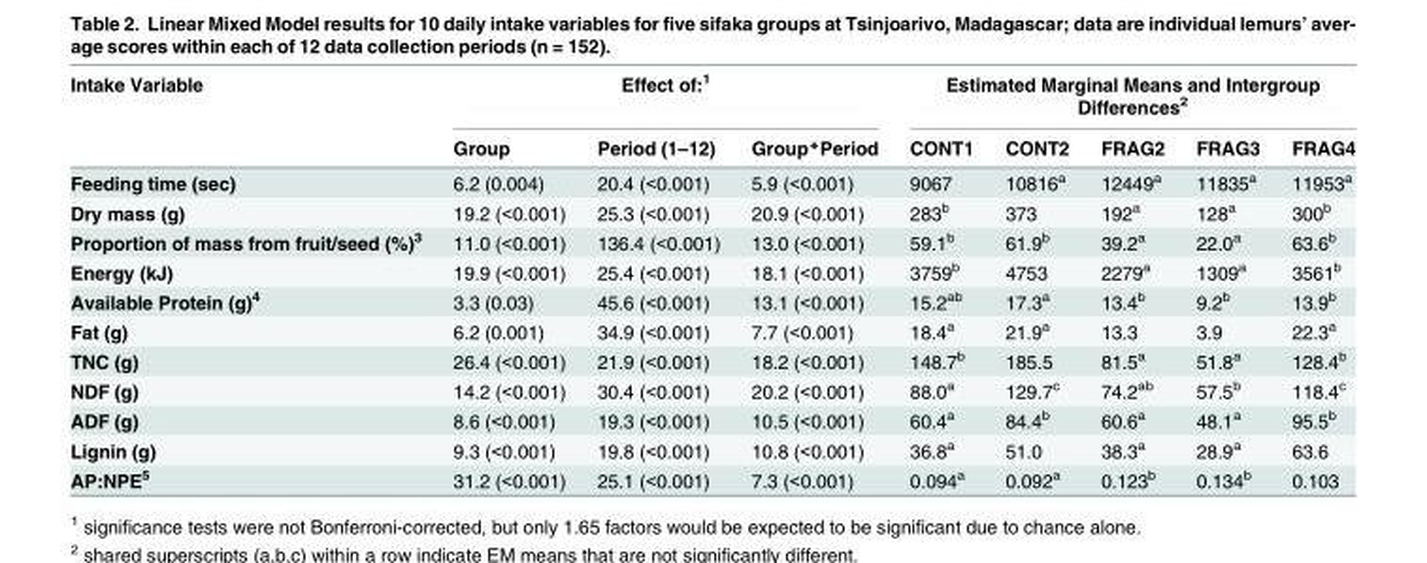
<table><thead><tr><td rowspan="2">Intake Variable</td><td colspan="3">Effect of:<sup>1</sup></td><td colspan="5">Estimated Marginal Means and Intergroup Differences<sup>2</sup></td></tr><tr><td>Group</td><td>Period (1–12)</td><td>Group*Period</td><td>CONT1</td><td>CONT2</td><td>FRAG2</td><td>FRAG3</td><td>FRAG4</td></tr></thead><tbody><tr><td>Feeding time (sec)</td><td>6.2 (0.004)</td><td>20.4 (&lt;0.001)</td><td>5.9 (&lt;0.001)</td><td>9067</td><td>10816<sup>a</sup></td><td>12449<sup>a</sup></td><td>11835<sup>a</sup></td><td>11953<sup>a</sup></td></tr><tr><td>Dry mass (g)</td><td>19.2 (&lt;0.001)</td><td>25.3 (&lt;0.001)</td><td>20.9 (&lt;0.001)</td><td>283<sup>b</sup></td><td>373</td><td>192<sup>a</sup></td><td>128<sup>a</sup></td><td>300<sup>b</sup></td></tr><tr><td>Proportion of mass from fruit/seed (%)<sup>3</sup></td><td>11.0 (&lt;0.001)</td><td>136.4 (&lt;0.001)</td><td>13.0 (&lt;0.001)</td><td>59.1<sup>b</sup></td><td>61.9<sup>b</sup></td><td>39.2<sup>a</sup></td><td>22.0<sup>a</sup></td><td>63.6<sup>b</sup></td></tr><tr><td>Energy (kJ)</td><td>19.9 (&lt;0.001)</td><td>25.4 (&lt;0.001)</td><td>18.1 (&lt;0.001)</td><td>3759<sup>b</sup></td><td>4753</td><td>2279<sup>a</sup></td><td>1309<sup>a</sup></td><td>3561<sup>b</sup></td></tr><tr><td>Available Protein (g)<sup>4</sup></td><td>3.3 (0.03)</td><td>45.6 (&lt;0.001)</td><td>13.1 (&lt;0.001)</td><td>15.2<sup>ab</sup></td><td>17.3<sup>a</sup></td><td>13.4<sup>b</sup></td><td>9.2<sup>b</sup></td><td>13.9<sup>b</sup></td></tr><tr><td>Fat (g)</td><td>6.2 (0.001)</td><td>34.9 (&lt;0.001)</td><td>7.7 (&lt;0.001)</td><td>18.4<sup>a</sup></td><td>21.9<sup>a</sup></td><td>13.3</td><td>3.9</td><td>22.3<sup>a</sup></td></tr><tr><td>TNC (g)</td><td>26.4 (&lt;0.001)</td><td>21.9 (&lt;0.001)</td><td>18.2 (&lt;0.001)</td><td>148.7<sup>b</sup></td><td>185.5</td><td>81.5<sup>a</sup></td><td>51.8<sup>a</sup></td><td>128.4<sup>b</sup></td></tr><tr><td>NDF (g)</td><td>14.2 (&lt;0.001)</td><td>30.4 (&lt;0.001)</td><td>20.2 (&lt;0.001)</td><td>88.0<sup>a</sup></td><td>129.7<sup>c</sup></td><td>74.2<sup>ab</sup></td><td>57.5<sup>b</sup></td><td>118.4<sup>c</sup></td></tr><tr><td>ADF (g)</td><td>8.6 (&lt;0.001)</td><td>19.3 (&lt;0.001)</td><td>10.5 (&lt;0.001)</td><td>60.4<sup>a</sup></td><td>84.4<sup>b</sup></td><td>60.6<sup>a</sup></td><td>48.1<sup>a</sup></td><td>95.5<sup>b</sup></td></tr><tr><td>Lignin (g)</td><td>9.3 (&lt;0.001)</td><td>19.8 (&lt;0.001)</td><td>10.8 (&lt;0.001)</td><td>36.8<sup>a</sup></td><td>51.0</td><td>38.3<sup>a</sup></td><td>28.9<sup>a</sup></td><td>63.6</td></tr><tr><td>AP:NPE<sup>5</sup></td><td>31.2 (&lt;0.001)</td><td>25.1 (&lt;0.001)</td><td>7.3 (&lt;0.001)</td><td>0.094<sup>a</sup></td><td>0.092<sup>a</sup></td><td>0.123<sup>b</sup></td><td>0.134<sup>b</sup></td><td>0.103</td></tr></tbody></table>